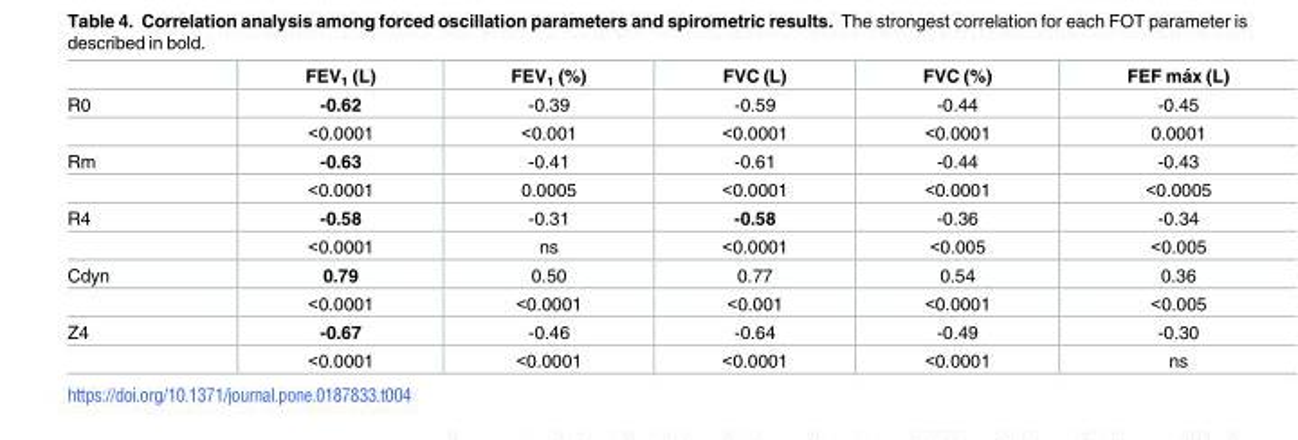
<table><thead><tr><td></td><td>FEV<sub>1</sub> (L)</td><td>FEV<sub>1</sub> (%)</td><td>FVC (L)</td><td>FVC (%)</td><td>FEF ma´x (L)</td></tr></thead><tbody><tr><td rowspan="2">R0</td><td>-0.62</td><td>-0.39</td><td>-0.59</td><td>-0.44</td><td>-0.45</td></tr><tr><td>&lt;0.0001</td><td>&lt;0.001</td><td>&lt;0.0001</td><td>&lt;0.0001</td><td>0.0001</td></tr><tr><td rowspan="2">Rm</td><td>-0.63</td><td>-0.41</td><td>-0.61</td><td>-0.44</td><td>-0.43</td></tr><tr><td>&lt;0.0001</td><td>0.0005</td><td>&lt;0.0001</td><td>&lt;0.0001</td><td>&lt;0.0005</td></tr><tr><td rowspan="2">R4</td><td>-0.58</td><td>-0.31</td><td>-0.58</td><td>-0.36</td><td>-0.34</td></tr><tr><td>&lt;0.0001</td><td>ns</td><td>&lt;0.0001</td><td>&lt;0.005</td><td>&lt;0.005</td></tr><tr><td rowspan="2">Cdyn</td><td>0.79</td><td>0.50</td><td>0.77</td><td>0.54</td><td>0.36</td></tr><tr><td>&lt;0.0001</td><td>&lt;0.0001</td><td>&lt;0.001</td><td>&lt;0.0001</td><td>&lt;0.005</td></tr><tr><td rowspan="2">Z4</td><td>-0.67</td><td>-0.46</td><td>-0.64</td><td>-0.49</td><td>-0.30</td></tr><tr><td>&lt;0.0001</td><td>&lt;0.0001</td><td>&lt;0.0001</td><td>&lt;0.0001</td><td>ns</td></tr></tbody></table>